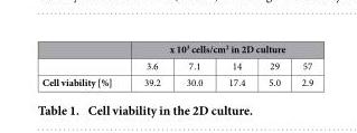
<table><thead><tr><td rowspan="2"></td><td colspan="5">x 10<sup>3</sup> cells/cm<sup>2</sup> in 2D culture</td></tr><tr><td>3.6</td><td>7.1</td><td>14</td><td>29</td><td>57</td></tr></thead><tbody><tr><td>Cell viability [%]</td><td>39.2</td><td>30.0</td><td>17.4</td><td>5.0</td><td>2.9</td></tr></tbody></table>